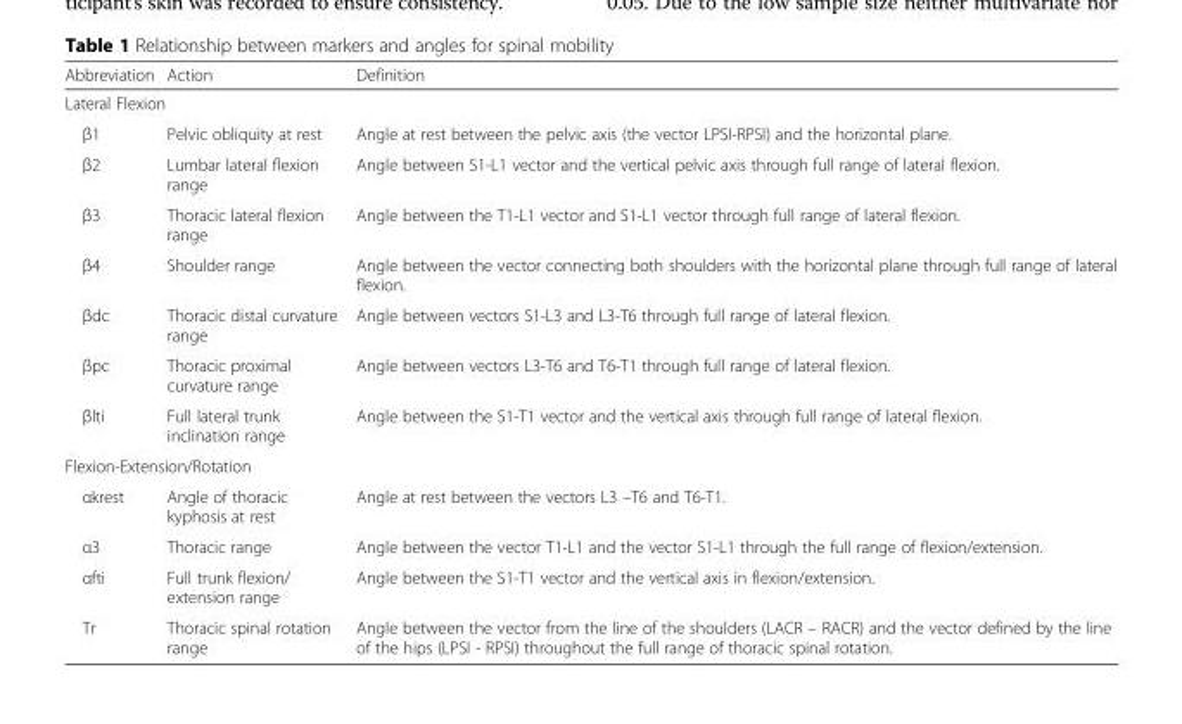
<table><thead><tr><td>Abbreviation</td><td>Action</td><td>Definition</td></tr></thead><tbody><tr><td colspan="3">Lateral Flexion</td></tr><tr><td>β1</td><td>Pelvic obliquity at rest</td><td>Angle at rest between the pelvic axis (the vector LPSI-RPSI) and the horizontal plane.</td></tr><tr><td>β2</td><td>Lumbar lateral flexion range</td><td>Angle between S1-L1 vector and the vertical pelvic axis through full range of lateral flexion.</td></tr><tr><td>β3</td><td>Thoracic lateral flexion range</td><td>Angle between the T1-L1 vector and S1-L1 vector through full range of lateral flexion.</td></tr><tr><td>β4</td><td>Shoulder range</td><td>Angle between the vector connecting both shoulders with the horizontal plane through full range of lateral flexion.</td></tr><tr><td>βdc</td><td>Thoracic distal curvature range</td><td>Angle between vectors S1-L3 and L3-T6 through full range of lateral flexion.</td></tr><tr><td>βpc</td><td>Thoracic proximal curvature range</td><td>Angle between vectors L3-T6 and T6-T1 through full range of lateral flexion.</td></tr><tr><td>βlti</td><td>Full lateral trunk inclination range</td><td>Angle between the S1-T1 vector and the vertical axis through full range of lateral flexion.</td></tr><tr><td colspan="3">Flexion-Extension/Rotation</td></tr><tr><td>αkrest</td><td>Angle of thoracic kyphosis at rest</td><td>Angle at rest between the vectors L3 –T6 and T6-T1.</td></tr><tr><td>α3</td><td>Thoracic range</td><td>Angle between the vector T1-L1 and the vector S1-L1 through the full range of flexion/extension.</td></tr><tr><td>αfti</td><td>Full trunk flexion/ extension range</td><td>Angle between the S1-T1 vector and the vertical axis in flexion/extension.</td></tr><tr><td>Tr</td><td>Thoracic spinal rotation range</td><td>Angle between the vector from the line of the shoulders (LACR – RACR) and the vector defined by the line of the hips (LPSI - RPSI) throughout the full range of thoracic spinal rotation.</td></tr></tbody></table>